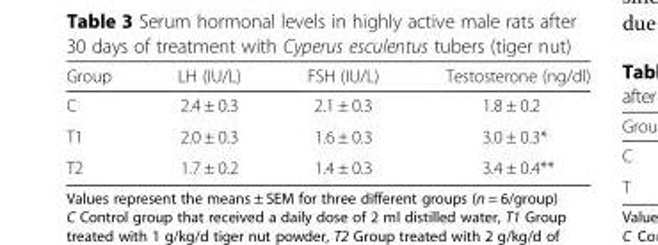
<table><thead><tr><td>Group</td><td>LH (IU/L)</td><td>FSH (IU/L)</td><td>Testosterone (ng/dl)</td></tr></thead><tbody><tr><td>C</td><td>2.4 ± 0.3</td><td>2.1 ± 0.3</td><td>1.8 ± 0.2</td></tr><tr><td>T1</td><td>2.0 ± 0.3</td><td>1.6 ± 0.3</td><td>3.0 ± 0.3*</td></tr><tr><td>T2</td><td>1.7 ± 0.2</td><td>1.4 ± 0.3</td><td>3.4 ± 0.4**</td></tr></tbody></table>